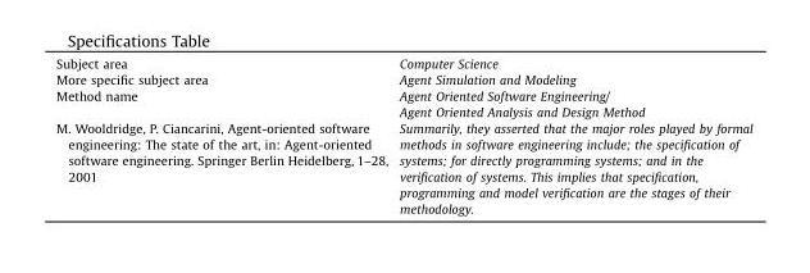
<table><tbody><tr><td>Subject area</td><td>Computer Science</td></tr><tr><td>More specific subject area</td><td>Agent Simulation and Modeling</td></tr><tr><td>Method name</td><td>Agent Oriented Software Engineering/ Agent Oriented Analysis and Design Method</td></tr><tr><td>M. Wooldridge, P. Ciancarini, Agent-oriented software engineering: The state of the art, in: Agent-oriented software engineering. Springer Berlin Heidelberg, 1–28, 2001</td><td>Summarily, they asserted that the major roles played by formal methods in software engineering include; the specification of systems; for directly programming systems; and in the verification of systems. This implies that specification, programming and model verification are the stages of their methodology.</td></tr></tbody></table>